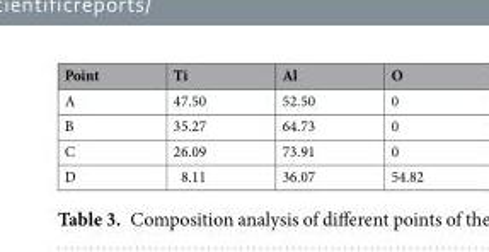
<table><thead><tr><td>Point</td><td>Ti</td><td>Al</td><td>O</td></tr></thead><tbody><tr><td>A</td><td>47.50</td><td>52.50</td><td>0</td></tr><tr><td>B</td><td>35.27</td><td>64.73</td><td>0</td></tr><tr><td>C</td><td>26.09</td><td>73.91</td><td>0</td></tr><tr><td>D</td><td>8.11</td><td>36.07</td><td>54.82</td></tr></tbody></table>